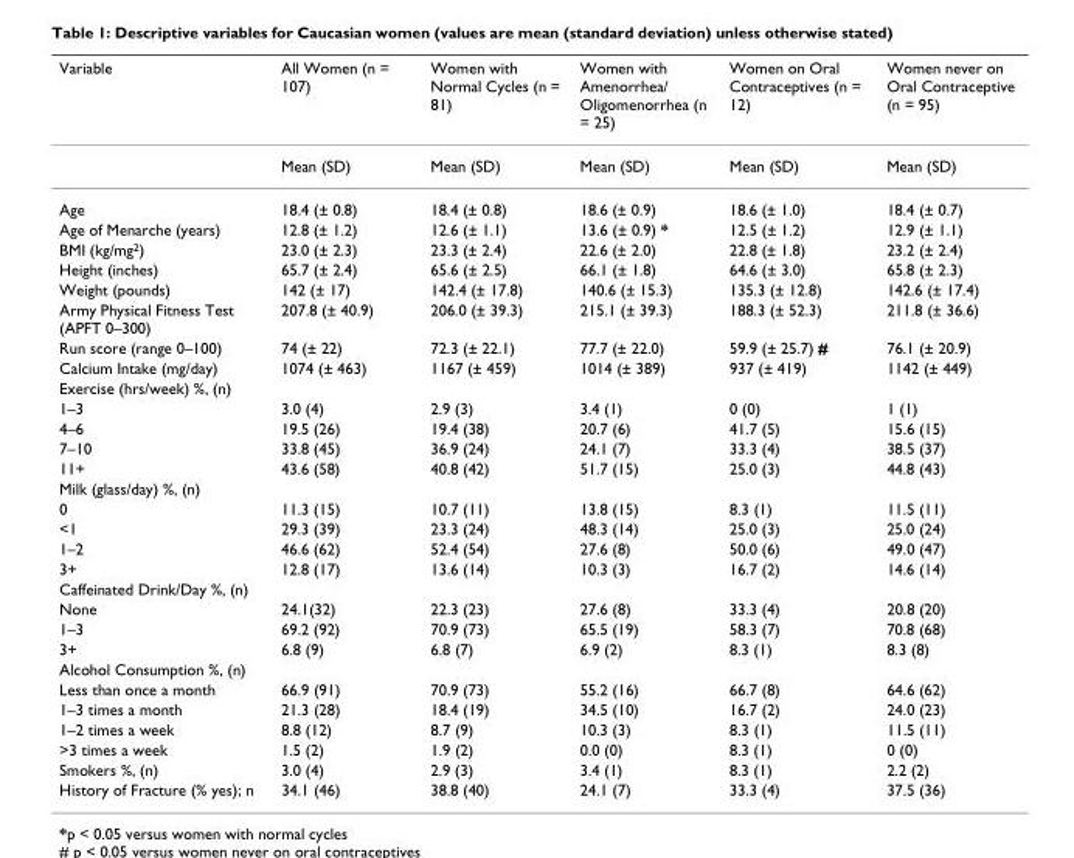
<table><thead><tr><td>Variable</td><td>All Women (n = 107)</td><td>Women with Normal Cycles (n = 81)</td><td>Women with Amenorrhea/ Oligomenorrhea (n = 25)</td><td>Women on Oral Contraceptives (n = 12)</td><td>Women never on Oral Contraceptive (n = 95)</td></tr></thead><tbody><tr><td></td><td>Mean (SD)</td><td>Mean (SD)</td><td>Mean (SD)</td><td>Mean (SD)</td><td>Mean (SD)</td></tr><tr><td>Age</td><td>18.4 (± 0.8)</td><td>18.4 (± 0.8)</td><td>18.6 (± 0.9)</td><td>18.6 (± 1.0)</td><td>18.4 (± 0.7)</td></tr><tr><td>Age of Menarche (years)</td><td>12.8 (± 1.2)</td><td>12.6 (± 1.1)</td><td>13.6 (± 0.9) *</td><td>12.5 (± 1.2)</td><td>12.9 (± 1.1)</td></tr><tr><td>BMI (kg/mg<sup>2</sup>)</td><td>23.0 (± 2.3)</td><td>23.3 (± 2.4)</td><td>22.6 (± 2.0)</td><td>22.8 (± 1.8)</td><td>23.2 (± 2.4)</td></tr><tr><td>Height (inches)</td><td>65.7 (± 2.4)</td><td>65.6 (± 2.5)</td><td>66.1 (± 1.8)</td><td>64.6 (± 3.0)</td><td>65.8 (± 2.3)</td></tr><tr><td>Weight (pounds)</td><td>142 (± 17)</td><td>142.4 (± 17.8)</td><td>140.6 (± 15.3)</td><td>135.3 (± 12.8)</td><td>142.6 (± 17.4)</td></tr><tr><td>Army Physical Fitness Test (APFT 0–300)</td><td>207.8 (± 40.9)</td><td>206.0 (± 39.3)</td><td>215.1 (± 39.3)</td><td>188.3 (± 52.3)</td><td>211.8 (± 36.6)</td></tr><tr><td>Run score (range 0–100)</td><td>74 (± 22)</td><td>72.3 (± 22.1)</td><td>77.7 (± 22.0)</td><td>59.9 (± 25.7) #</td><td>76.1 (± 20.9)</td></tr><tr><td>Calcium Intake (mg/day)</td><td>1074 (± 463)</td><td>1167 (± 459)</td><td>1014 (± 389)</td><td>937 (± 419)</td><td>1142 (± 449)</td></tr><tr><td colspan="6">Exercise (hrs/week) %, (n)</td></tr><tr><td>1–3</td><td>3.0 (4)</td><td>2.9 (3)</td><td>3.4 (1)</td><td>0 (0)</td><td>1 (1)</td></tr><tr><td>4–6</td><td>19.5 (26)</td><td>19.4 (38)</td><td>20.7 (6)</td><td>41.7 (5)</td><td>15.6 (15)</td></tr><tr><td>7–10</td><td>33.8 (45)</td><td>36.9 (24)</td><td>24.1 (7)</td><td>33.3 (4)</td><td>38.5 (37)</td></tr><tr><td>11+</td><td>43.6 (58)</td><td>40.8 (42)</td><td>51.7 (15)</td><td>25.0 (3)</td><td>44.8 (43)</td></tr><tr><td colspan="6">Milk (glass/day) %, (n)</td></tr><tr><td>0</td><td>11.3 (15)</td><td>10.7 (11)</td><td>13.8 (15)</td><td>8.3 (1)</td><td>11.5 (11)</td></tr><tr><td>&lt;1</td><td>29.3 (39)</td><td>23.3 (24)</td><td>48.3 (14)</td><td>25.0 (3)</td><td>25.0 (24)</td></tr><tr><td>1–2</td><td>46.6 (62)</td><td>52.4 (54)</td><td>27.6 (8)</td><td>50.0 (6)</td><td>49.0 (47)</td></tr><tr><td>3+</td><td>12.8 (17)</td><td>13.6 (14)</td><td>10.3 (3)</td><td>16.7 (2)</td><td>14.6 (14)</td></tr><tr><td colspan="6">Caffeinated Drink/Day %, (n)</td></tr><tr><td>None</td><td>24.1(32)</td><td>22.3 (23)</td><td>27.6 (8)</td><td>33.3 (4)</td><td>20.8 (20)</td></tr><tr><td>1–3</td><td>69.2 (92)</td><td>70.9 (73)</td><td>65.5 (19)</td><td>58.3 (7)</td><td>70.8 (68)</td></tr><tr><td>3+</td><td>6.8 (9)</td><td>6.8 (7)</td><td>6.9 (2)</td><td>8.3 (1)</td><td>8.3 (8)</td></tr><tr><td colspan="6">Alcohol Consumption %, (n)</td></tr><tr><td>Less than once a month</td><td>66.9 (91)</td><td>70.9 (73)</td><td>55.2 (16)</td><td>66.7 (8)</td><td>64.6 (62)</td></tr><tr><td>1–3 times a month</td><td>21.3 (28)</td><td>18.4 (19)</td><td>34.5 (10)</td><td>16.7 (2)</td><td>24.0 (23)</td></tr><tr><td>1–2 times a week</td><td>8.8 (12)</td><td>8.7 (9)</td><td>10.3 (3)</td><td>8.3 (1)</td><td>11.5 (11)</td></tr><tr><td>&gt;3 times a week</td><td>1.5 (2)</td><td>1.9 (2)</td><td>0.0 (0)</td><td>8.3 (1)</td><td>0 (0)</td></tr><tr><td>Smokers %, (n)</td><td>3.0 (4)</td><td>2.9 (3)</td><td>3.4 (1)</td><td>8.3 (1)</td><td>2.2 (2)</td></tr><tr><td>History of Fracture (% yes); n</td><td>34.1 (46)</td><td>38.8 (40)</td><td>24.1 (7)</td><td>33.3 (4)</td><td>37.5 (36)</td></tr></tbody></table>